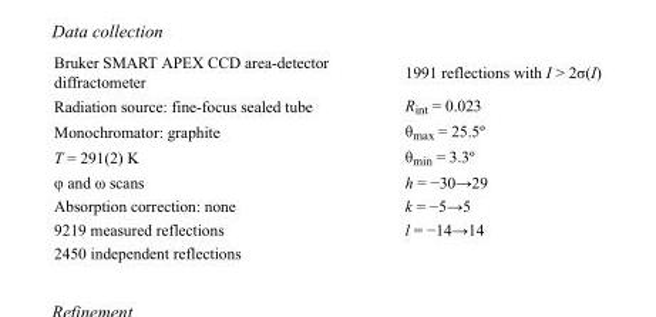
<table><tbody><tr><td>Bruker SMART APEX CCD area-detector diffractometer</td><td>1991 reflections with I &gt; 2σ(I)</td></tr><tr><td>Radiation source: fine-focus sealed tube</td><td>R<sub>int</sub> = 0.023</td></tr><tr><td>Monochromator: graphite</td><td>θ<sub>max</sub> = 25.5º</td></tr><tr><td>T = 291(2) K</td><td>θ<sub>min</sub> = 3.3º</td></tr><tr><td>φ and ω scans</td><td>h = −30→29</td></tr><tr><td>Absorption correction: none</td><td>k = −5→5</td></tr><tr><td>9219 measured reflections</td><td>l = −14→14</td></tr><tr><td>2450 independent reflections</td><td></td></tr></tbody></table>